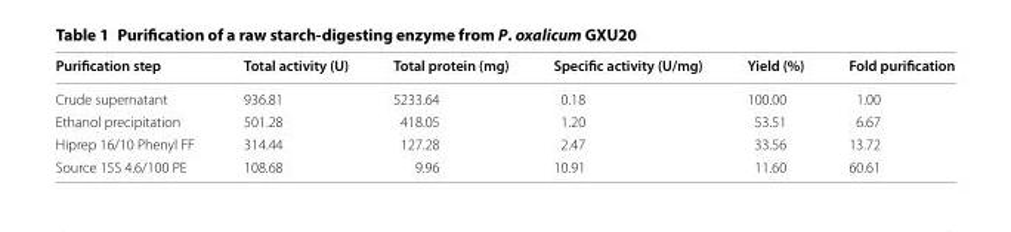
<table><thead><tr><td>Purification step</td><td>Total activity (U)</td><td>Total protein (mg)</td><td>Specific activity (U/mg)</td><td>Yield (%)</td><td>Fold purification</td></tr></thead><tbody><tr><td>Crude supernatant</td><td>936.81</td><td>5233.64</td><td>0.18</td><td>100.00</td><td>1.00</td></tr><tr><td>Ethanol precipitation</td><td>501.28</td><td>418.05</td><td>1.20</td><td>53.51</td><td>6.67</td></tr><tr><td>Hiprep 16/10 Phenyl FF</td><td>314.44</td><td>127.28</td><td>2.47</td><td>33.56</td><td>13.72</td></tr><tr><td>Source 15S 4.6/100 PE</td><td>108.68</td><td>9.96</td><td>10.91</td><td>11.60</td><td>60.61</td></tr></tbody></table>